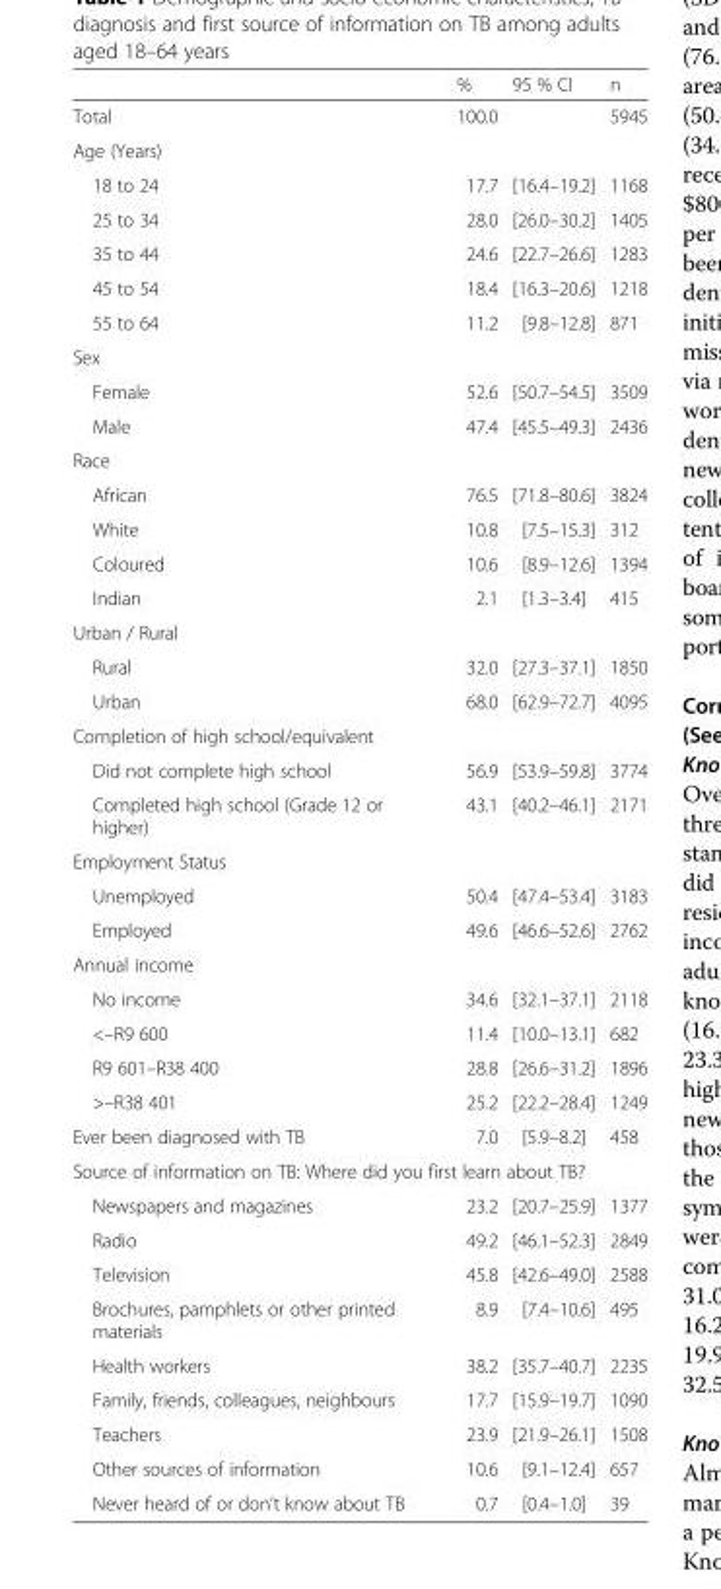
<table><thead><tr><td></td><td>%</td><td>95 % CI</td><td>n</td></tr></thead><tbody><tr><td>Total</td><td>100.0</td><td></td><td>5945</td></tr><tr><td colspan="4">Age (Years)</td></tr><tr><td>18 to 24</td><td>17.7</td><td>[16.4–19.2]</td><td>1168</td></tr><tr><td>25 to 34</td><td>28.0</td><td>[26.0–30.2]</td><td>1405</td></tr><tr><td>35 to 44</td><td>24.6</td><td>[22.7–26.6]</td><td>1283</td></tr><tr><td>45 to 54</td><td>18.4</td><td>[16.3–20.6]</td><td>1218</td></tr><tr><td>55 to 64</td><td>11.2</td><td>[9.8–12.8]</td><td>871</td></tr><tr><td colspan="4">Sex</td></tr><tr><td>Female</td><td>52.6</td><td>[50.7–54.5]</td><td>3509</td></tr><tr><td>Male</td><td>47.4</td><td>[45.5–49.3]</td><td>2436</td></tr><tr><td colspan="4">Race</td></tr><tr><td>African</td><td>76.5</td><td>[71.8–80.6]</td><td>3824</td></tr><tr><td>White</td><td>10.8</td><td>[7.5–15.3]</td><td>312</td></tr><tr><td>Coloured</td><td>10.6</td><td>[8.9–12.6]</td><td>1394</td></tr><tr><td>Indian</td><td>2.1</td><td>[1.3–3.4]</td><td>415</td></tr><tr><td colspan="4">Urban / Rural</td></tr><tr><td>Rural</td><td>32.0</td><td>[27.3–37.1]</td><td>1850</td></tr><tr><td>Urban</td><td>68.0</td><td>[62.9–72.7]</td><td>4095</td></tr><tr><td colspan="4">Completion of high school/equivalent</td></tr><tr><td>Did not complete high school</td><td>56.9</td><td>[53.9–59.8]</td><td>3774</td></tr><tr><td>Completed high school (Grade 12 or higher)</td><td>43.1</td><td>[40.2–46.1]</td><td>2171</td></tr><tr><td colspan="4">Employment Status</td></tr><tr><td>Unemployed</td><td>50.4</td><td>[47.4–53.4]</td><td>3183</td></tr><tr><td>Employed</td><td>49.6</td><td>[46.6–52.6]</td><td>2762</td></tr><tr><td colspan="4">Annual income</td></tr><tr><td>No income</td><td>34.6</td><td>[32.1–37.1]</td><td>2118</td></tr><tr><td>&lt;–R9 600</td><td>11.4</td><td>[10.0–13.1]</td><td>682</td></tr><tr><td>R9 601–R38 400</td><td>28.8</td><td>[26.6–31.2]</td><td>1896</td></tr><tr><td>&gt;–R38 401</td><td>25.2</td><td>[22.2–28.4]</td><td>1249</td></tr><tr><td>Ever been diagnosed with TB</td><td>7.0</td><td>[5.9–8.2]</td><td>458</td></tr><tr><td colspan="4">Source of information on TB: Where did you first learn about TB?</td></tr><tr><td>Newspapers and magazines</td><td>23.2</td><td>[20.7–25.9]</td><td>1377</td></tr><tr><td>Radio</td><td>49.2</td><td>[46.1–52.3]</td><td>2849</td></tr><tr><td>Television</td><td>45.8</td><td>[42.6–49.0]</td><td>2588</td></tr><tr><td>Brochures, pamphlets or other printed materials</td><td>8.9</td><td>[7.4–10.6]</td><td>495</td></tr><tr><td>Health workers</td><td>38.2</td><td>[35.7–40.7]</td><td>2235</td></tr><tr><td>Family, friends, colleagues, neighbours</td><td>17.7</td><td>[15.9–19.7]</td><td>1090</td></tr><tr><td>Teachers</td><td>23.9</td><td>[21.9–26.1]</td><td>1508</td></tr><tr><td>Other sources of information</td><td>10.6</td><td>[9.1–12.4]</td><td>657</td></tr><tr><td>Never heard of or don’t know about TB</td><td>0.7</td><td>[0.4–1.0]</td><td>39</td></tr></tbody></table>